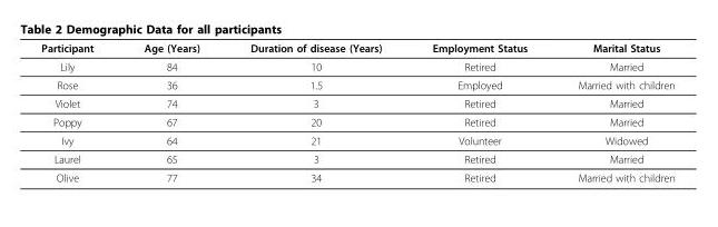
<table><thead><tr><td>Participant</td><td>Age (Years)</td><td>Duration of disease (Years)</td><td>Employment Status</td><td>Marital Status</td></tr></thead><tbody><tr><td>Lily</td><td>84</td><td>10</td><td>Retired</td><td>Married</td></tr><tr><td>Rose</td><td>36</td><td>1.5</td><td>Employed</td><td>Married with children</td></tr><tr><td>Violet</td><td>74</td><td>3</td><td>Retired</td><td>Married</td></tr><tr><td>Poppy</td><td>67</td><td>20</td><td>Retired</td><td>Married</td></tr><tr><td>Ivy</td><td>64</td><td>21</td><td>Volunteer</td><td>Widowed</td></tr><tr><td>Laurel</td><td>65</td><td>3</td><td>Retired</td><td>Married</td></tr><tr><td>Olive</td><td>77</td><td>34</td><td>Retired</td><td>Married with children</td></tr></tbody></table>